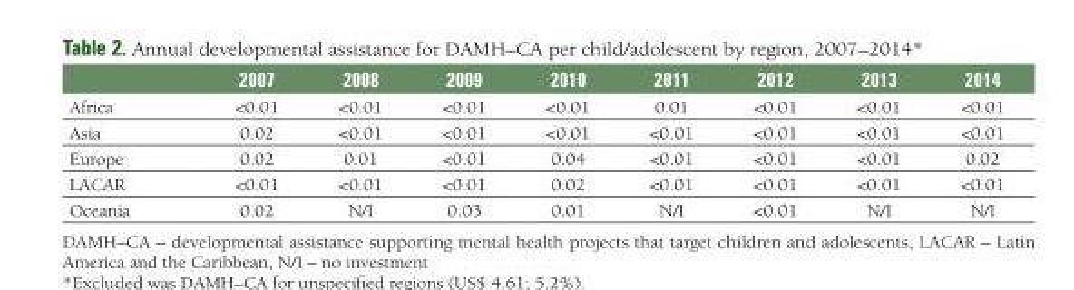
<table><thead><tr><td></td><td>2007</td><td>2008</td><td>2009</td><td>2010</td><td>2011</td><td>2012</td><td>2013</td><td>2014</td></tr></thead><tbody><tr><td>Africa</td><td>&lt;0.01</td><td>&lt;0.01</td><td>&lt;0.01</td><td>&lt;0.01</td><td>0.01</td><td>&lt;0.01</td><td>&lt;0.01</td><td>&lt;0.01</td></tr><tr><td>Asia</td><td>0.02</td><td>&lt;0.01</td><td>&lt;0.01</td><td>&lt;0.01</td><td>&lt;0.01</td><td>&lt;0.01</td><td>&lt;0.01</td><td>&lt;0.01</td></tr><tr><td>Europe</td><td>0.02</td><td>0.01</td><td>&lt;0.01</td><td>0.04</td><td>&lt;0.01</td><td>&lt;0.01</td><td>&lt;0.01</td><td>0.02</td></tr><tr><td>LACAR</td><td>&lt;0.01</td><td>&lt;0.01</td><td>&lt;0.01</td><td>0.02</td><td>&lt;0.01</td><td>&lt;0.01</td><td>&lt;0.01</td><td>&lt;0.01</td></tr><tr><td>Oceania</td><td>0.02</td><td>N/I</td><td>0.03</td><td>0.01</td><td>N/I</td><td>&lt;0.01</td><td>N/I</td><td>N/I</td></tr></tbody></table>